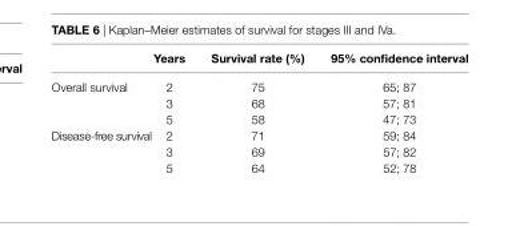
<table><thead><tr><td></td><td>Years</td><td>survival rate (%)</td><td>95% confidence interval</td></tr></thead><tbody><tr><td rowspan="3">Overall survival</td><td>2</td><td>75</td><td>65; 87</td></tr><tr><td>3</td><td>68</td><td>57; 81</td></tr><tr><td>5</td><td>58</td><td>47; 73</td></tr><tr><td rowspan="3">Disease-free survival</td><td>2</td><td>71</td><td>59; 84</td></tr><tr><td>3</td><td>69</td><td>57; 82</td></tr><tr><td>5</td><td>64</td><td>52; 78</td></tr></tbody></table>